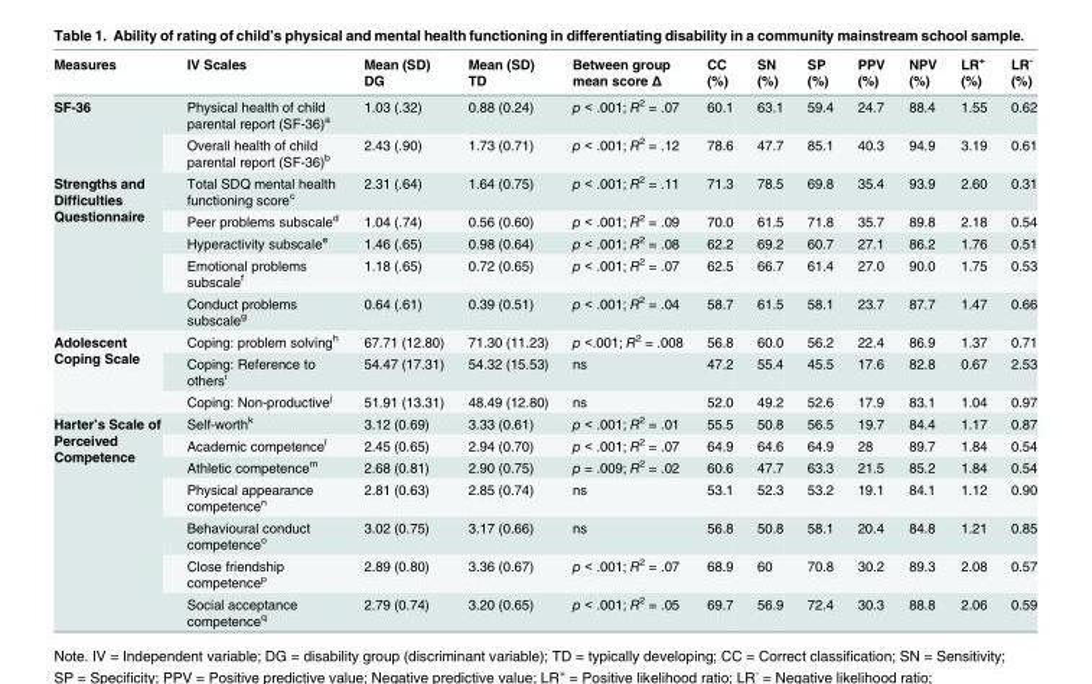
<table><thead><tr><td rowspan="2">Measures</td><td rowspan="2">IV Scales</td><td rowspan="2">Mean (SD) DG</td><td rowspan="2">Mean (SD) TD</td><td rowspan="2">Between group mean score Δ</td><td rowspan="2">CC (%)</td><td rowspan="2">SN (%)</td><td rowspan="2">SP (%)</td><td rowspan="2">PPV (%)</td><td rowspan="2">NPV (%)</td><td rowspan="2">LR<sup>+</sup> (%)</td><td rowspan="2">LR<sup>-</sup> (%)</td></tr><tr></tr></thead><tbody><tr><td rowspan="2">SF-36</td><td>Physical health of child parental report (SF-36)<sup>a</sup></td><td>1.03 (.32)</td><td>0.88 (0.24)</td><td>p &lt; .001; R<sup>2</sup> = .07</td><td>60.1</td><td>63.1</td><td>59.4</td><td>24.7</td><td>88.4</td><td>1.55</td><td>0.62</td></tr><tr><td>Overall health of child parental report (SF-36)<sup>b</sup></td><td>2.43 (.90)</td><td>1.73 (0.71)</td><td>p &lt; .001; R<sup>2</sup> = .12</td><td>78.6</td><td>47.7</td><td>85.1</td><td>40.3</td><td>94.9</td><td>3.19</td><td>0.61</td></tr><tr><td rowspan="5">Strengths and Difficulties Questionnaire</td><td>Total SDQ mental health functioning score<sup>c</sup></td><td>2.31 (.64)</td><td>1.64 (0.75)</td><td>p &lt; .001; R<sup>2</sup> = .11</td><td>71.3</td><td>78.5</td><td>69.8</td><td>35.4</td><td>93.9</td><td>2.60</td><td>0.31</td></tr><tr><td>Peer problems subscale<sup>d</sup></td><td>1.04 (.74)</td><td>0.56 (0.60)</td><td>p &lt; .001; R<sup>2</sup> = .09</td><td>70.0</td><td>61.5</td><td>71.8</td><td>35.7</td><td>89.8</td><td>2.18</td><td>0.54</td></tr><tr><td>Hyperactivity subscale<sup>e</sup></td><td>1.46 (.65)</td><td>0.98 (0.64)</td><td>p &lt; .001; R<sup>2</sup> = .08</td><td>62.2</td><td>69.2</td><td>60.7</td><td>27.1</td><td>86.2</td><td>1.76</td><td>0.51</td></tr><tr><td>Emotional problems subscale<sup>f</sup></td><td>1.18 (.65)</td><td>0.72 (0.65)</td><td>p &lt; .001; R<sup>2</sup> = .07</td><td>62.5</td><td>66.7</td><td>61.4</td><td>27.0</td><td>90.0</td><td>1.75</td><td>0.53</td></tr><tr><td>Conduct problems subscale<sup>g</sup></td><td>0.64 (.61)</td><td>0.39 (0.51)</td><td>p &lt; .001; R<sup>2</sup> = .04</td><td>58.7</td><td>61.5</td><td>58.1</td><td>23.7</td><td>87.7</td><td>1.47</td><td>0.66</td></tr><tr><td rowspan="3">Adolescent Coping Scale</td><td>Coping: problem solving<sup>h</sup></td><td>67.71 (12.80)</td><td>71.30 (11.23)</td><td>p &lt;.001; R<sup>2</sup> = .008</td><td>56.8</td><td>60.0</td><td>56.2</td><td>22.4</td><td>86.9</td><td>1.37</td><td>0.71</td></tr><tr><td>Coping: Reference to others<sup>i</sup></td><td>54.47 (17.31)</td><td>54.32 (15.53)</td><td>ns</td><td>47.2</td><td>55.4</td><td>45.5</td><td>17.6</td><td>82.8</td><td>0.67</td><td>2.53</td></tr><tr><td>Coping: Non-productive<sup>j</sup></td><td>51.91 (13.31)</td><td>48.49 (12.80)</td><td>ns</td><td>52.0</td><td>49.2</td><td>52.6</td><td>17.9</td><td>83.1</td><td>1.04</td><td>0.97</td></tr><tr><td rowspan="7">Harter’s Scale of Perceived Competence</td><td>Self-worth<sup>k</sup></td><td>3.12 (0.69)</td><td>3.33 (0.61)</td><td>p &lt; .001; R<sup>2</sup> = .01</td><td>55.5</td><td>50.8</td><td>56.5</td><td>19.7</td><td>84.4</td><td>1.17</td><td>0.87</td></tr><tr><td>Academic competence<sup>l</sup></td><td>2.45 (0.65)</td><td>2.94 (0.70)</td><td>p &lt; .001; R<sup>2</sup> = .07</td><td>64.9</td><td>64.6</td><td>64.9</td><td>28</td><td>89.7</td><td>1.84</td><td>0.54</td></tr><tr><td>Athletic competence<sup>m</sup></td><td>2.68 (0.81)</td><td>2.90 (0.75)</td><td>p = .009; R<sup>2</sup> = .02</td><td>60.6</td><td>47.7</td><td>63.3</td><td>21.5</td><td>85.2</td><td>1.84</td><td>0.54</td></tr><tr><td>Physical appearance competence<sup>n</sup></td><td>2.81 (0.63)</td><td>2.85 (0.74)</td><td>ns</td><td>53.1</td><td>52.3</td><td>53.2</td><td>19.1</td><td>84.1</td><td>1.12</td><td>0.90</td></tr><tr><td>Behavioural conduct competence<sup>o</sup></td><td>3.02 (0.75)</td><td>3.17 (0.66)</td><td>ns</td><td>56.8</td><td>50.8</td><td>58.1</td><td>20.4</td><td>84.8</td><td>1.21</td><td>0.85</td></tr><tr><td>Close friendship competence<sup>p</sup></td><td>2.89 (0.80)</td><td>3.36 (0.67)</td><td>p &lt; .001; R<sup>2</sup> = .07</td><td>68.9</td><td>60</td><td>70.8</td><td>30.2</td><td>89.3</td><td>2.08</td><td>0.57</td></tr><tr><td>Social acceptance competence<sup>q</sup></td><td>2.79 (0.74)</td><td>3.20 (0.65)</td><td>p &lt; .001; R<sup>2</sup> = .05</td><td>69.7</td><td>56.9</td><td>72.4</td><td>30.3</td><td>88.8</td><td>2.06</td><td>0.59</td></tr></tbody></table>